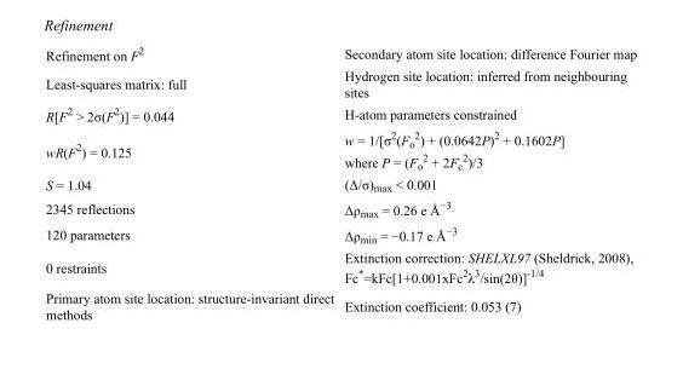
<table><tbody><tr><td>Refinement on F<sup>2</sup></td><td>Secondary atom site location: difference Fourier map</td></tr><tr><td>Least-squares matrix: full</td><td>Hydrogen site location: inferred from neighbouring sites</td></tr><tr><td>R[F<sup>2</sup> &gt; 2σ(F<sup>2</sup>)] = 0.044</td><td>H-atom parameters constrained</td></tr><tr><td>wR(F<sup>2</sup>) = 0.125</td><td>w = 1/[σ<sup>2</sup>(F<sub>o</sub> <sup>2</sup>) + (0.0642P)<sup>2</sup> + 0.1602P] where P = (F<sub>o</sub> <sup>2</sup> + 2F<sub>c</sub> <sup>2</sup>)/3</td></tr><tr><td>S = 1.04</td><td>(Δ/σ)<sub>max</sub> &lt; 0.001</td></tr><tr><td>2345 reflections</td><td>Δρ<sub>max</sub> = 0.26 e Å<sup>−3</sup></td></tr><tr><td>120 parameters</td><td>Δρ<sub>min</sub> = −0.17 e Å<sup>−3</sup></td></tr><tr><td>0 restraints</td><td>Extinction correction: SHELXL97 (Sheldrick, 2008), Fc*=kFc[1+0.001xFc<sup>2</sup>λ<sup>3</sup>/sin(2θ)]<sup>-1/4</sup></td></tr><tr><td>Primary atom site location: structure-invariant direct methods</td><td>Extinction coefficient: 0.053 (7)</td></tr></tbody></table>